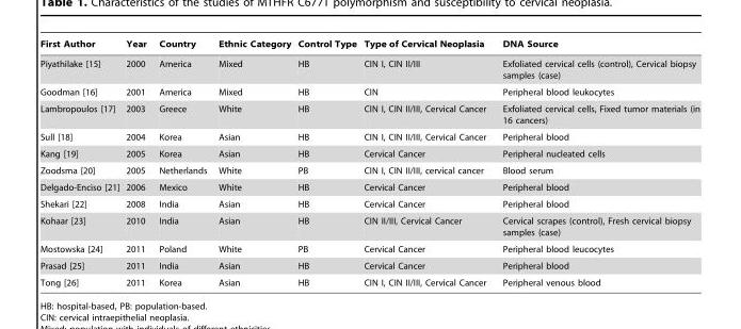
<table><thead><tr><td>First Author</td><td>Year</td><td>Country</td><td>Ethnic Category</td><td>Control Type</td><td>Type of Cervical Neoplasia</td><td>DNA Source</td></tr></thead><tbody><tr><td>Piyathilake [15]</td><td>2000</td><td>America</td><td>Mixed</td><td>HB</td><td>CIN I, CIN II/III</td><td>Exfoliated cervical cells (control), Cervical biopsy samples (case)</td></tr><tr><td>Goodman [16]</td><td>2001</td><td>America</td><td>Mixed</td><td>HB</td><td>CIN</td><td>Peripheral blood leukocytes</td></tr><tr><td>Lambropoulos [17]</td><td>2003</td><td>Greece</td><td>White</td><td>HB</td><td>CIN I, CIN II/III, Cervical Cancer</td><td>Exfoliated cervical cells, Fixed tumor materials (in 16 cancers)</td></tr><tr><td>Sull [18]</td><td>2004</td><td>Korea</td><td>Asian</td><td>HB</td><td>CIN I, CIN II/III, Cervical Cancer</td><td>Peripheral blood</td></tr><tr><td>Kang [19]</td><td>2005</td><td>Korea</td><td>Asian</td><td>HB</td><td>Cervical Cancer</td><td>Peripheral nucleated cells</td></tr><tr><td>Zoodsma [20]</td><td>2005</td><td>Netherlands</td><td>White</td><td>PB</td><td>CIN I, CIN II/III, cervical cancer</td><td>Blood serum</td></tr><tr><td>Delgado-Enciso [21]</td><td>2006</td><td>Mexico</td><td>White</td><td>HB</td><td>Cervical Cancer</td><td>Peripheral blood</td></tr><tr><td>Shekari [22]</td><td>2008</td><td>India</td><td>Asian</td><td>HB</td><td>Cervical Cancer</td><td>Peripheral blood</td></tr><tr><td>Kohaar [23]</td><td>2010</td><td>India</td><td>Asian</td><td>HB</td><td>CIN II/III, Cervical Cancer</td><td>Cervical scrapes (control), Fresh cervical biopsy samples (case)</td></tr><tr><td>Mostowska [24]</td><td>2011</td><td>Poland</td><td>White</td><td>PB</td><td>Cervical Cancer</td><td>Peripheral blood leucocytes</td></tr><tr><td>Prasad [25]</td><td>2011</td><td>India</td><td>Asian</td><td>HB</td><td>Cervical Cancer</td><td>Peripheral blood</td></tr><tr><td>Tong [26]</td><td>2011</td><td>Korea</td><td>Asian</td><td>HB</td><td>CIN I, CIN II/III, Cervical Cancer</td><td>Peripheral venous blood</td></tr></tbody></table>